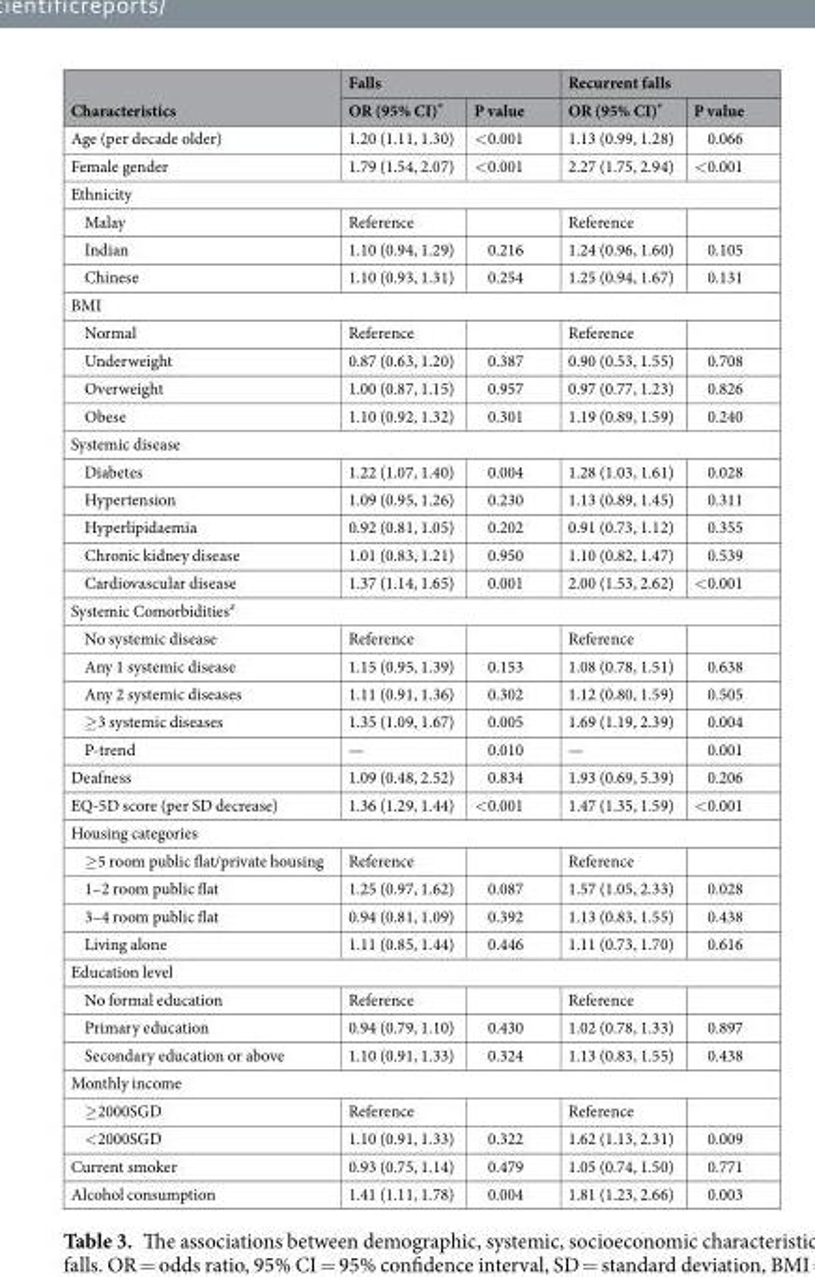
<table><thead><tr><td rowspan="2">Characteristics</td><td colspan="2">Falls</td><td colspan="2">Recurrent falls</td></tr><tr><td>OR (95% CI)*</td><td>P value</td><td>OR (95% CI)*</td><td>P value</td></tr></thead><tbody><tr><td>Age (per decade older)</td><td>1.20 (1.11, 1.30)</td><td>&lt;0.001</td><td>1.13 (0.99, 1.28)</td><td>0.066</td></tr><tr><td>Female gender</td><td>1.79 (1.54, 2.07)</td><td>&lt;0.001</td><td>2.27 (1.75, 2.94)</td><td>&lt;0.001</td></tr><tr><td colspan="5">Ethnicity</td></tr><tr><td>Malay</td><td>Reference</td><td></td><td>Reference</td><td></td></tr><tr><td>Indian</td><td>1.10 (0.94, 1.29)</td><td>0.216</td><td>1.24 (0.96, 1.60)</td><td>0.105</td></tr><tr><td>Chinese</td><td>1.10 (0.93, 1.31)</td><td>0.254</td><td>1.25 (0.94, 1.67)</td><td>0.131</td></tr><tr><td colspan="5">BMI</td></tr><tr><td>Normal</td><td>Reference</td><td></td><td>Reference</td><td></td></tr><tr><td>Underweight</td><td>0.87 (0.63, 1.20)</td><td>0.387</td><td>0.90 (0.53, 1.55)</td><td>0.708</td></tr><tr><td>Overweight</td><td>1.00 (0.87, 1.15)</td><td>0.957</td><td>0.97 (0.77, 1.23)</td><td>0.826</td></tr><tr><td>Obese</td><td>1.10 (0.92, 1.32)</td><td>0.301</td><td>1.19 (0.89, 1.59)</td><td>0.240</td></tr><tr><td colspan="5">Systemic disease</td></tr><tr><td>Diabetes</td><td>1.22 (1.07, 1.40)</td><td>0.004</td><td>1.28 (1.03, 1.61)</td><td>0.028</td></tr><tr><td>Hypertension</td><td>1.09 (0.95, 1.26)</td><td>0.230</td><td>1.13 (0.89, 1.45)</td><td>0.311</td></tr><tr><td>Hyperlipidaemia</td><td>0.92 (0.81, 1.05)</td><td>0.202</td><td>0.91 (0.73, 1.12)</td><td>0.355</td></tr><tr><td>Chronic kidney disease</td><td>1.01 (0.83, 1.21)</td><td>0.950</td><td>1.10 (0.82, 1.47)</td><td>0.539</td></tr><tr><td>Cardiovascular disease</td><td>1.37 (1.14, 1.65)</td><td>0.001</td><td>2.00 (1.53, 2.62)</td><td>&lt;0.001</td></tr><tr><td colspan="5">Systemic Comorbidities<sup>#</sup></td></tr><tr><td>No systemic disease</td><td>Reference</td><td></td><td>Reference</td><td></td></tr><tr><td>Any 1 systemic disease</td><td>1.15 (0.95, 1.39)</td><td>0.153</td><td>1.08 (0.78, 1.51)</td><td>0.638</td></tr><tr><td>Any 2 systemic diseases</td><td>1.11 (0.91, 1.36)</td><td>0.302</td><td>1.12 (0.80, 1.59)</td><td>0.505</td></tr><tr><td>≥3 systemic diseases</td><td>1.35 (1.09, 1.67)</td><td>0.005</td><td>1.69 (1.19, 2.39)</td><td>0.004</td></tr><tr><td>P-trend</td><td>—</td><td>0.010</td><td>—</td><td>0.001</td></tr><tr><td>Deafness</td><td>1.09 (0.48, 2.52)</td><td>0.834</td><td>1.93 (0.69, 5.39)</td><td>0.206</td></tr><tr><td>EQ-5D score (per SD decrease)</td><td>1.36 (1.29, 1.44)</td><td>&lt;0.001</td><td>1.47 (1.35, 1.59)</td><td>&lt;0.001</td></tr><tr><td colspan="5">Housing categories</td></tr><tr><td>≥5 room public flat/private housing</td><td>Reference</td><td></td><td>Reference</td><td></td></tr><tr><td>1–2 room public flat</td><td>1.25 (0.97, 1.62)</td><td>0.087</td><td>1.57 (1.05, 2.33)</td><td>0.028</td></tr><tr><td>3–4 room public flat</td><td>0.94 (0.81, 1.09)</td><td>0.392</td><td>1.13 (0.83, 1.55)</td><td>0.438</td></tr><tr><td>Living alone</td><td>1.11 (0.85, 1.44)</td><td>0.446</td><td>1.11 (0.73, 1.70)</td><td>0.616</td></tr><tr><td colspan="5">Education level</td></tr><tr><td>No formal education</td><td>Reference</td><td></td><td>Reference</td><td></td></tr><tr><td>Primary education</td><td>0.94 (0.79, 1.10)</td><td>0.430</td><td>1.02 (0.78, 1.33)</td><td>0.897</td></tr><tr><td>Secondary education or above</td><td>1.10 (0.91, 1.33)</td><td>0.324</td><td>1.13 (0.83, 1.55)</td><td>0.438</td></tr><tr><td colspan="5">Monthly income</td></tr><tr><td>≥2000SGD</td><td>Reference</td><td></td><td>Reference</td><td></td></tr><tr><td>&lt;2000SGD</td><td>1.10 (0.91, 1.33)</td><td>0.322</td><td>1.62 (1.13, 2.31)</td><td>0.009</td></tr><tr><td>Current smoker</td><td>0.93 (0.75, 1.14)</td><td>0.479</td><td>1.05 (0.74, 1.50)</td><td>0.771</td></tr><tr><td>Alcohol consumption</td><td>1.41 (1.11, 1.78)</td><td>0.004</td><td>1.81 (1.23, 2.66)</td><td>0.003</td></tr></tbody></table>